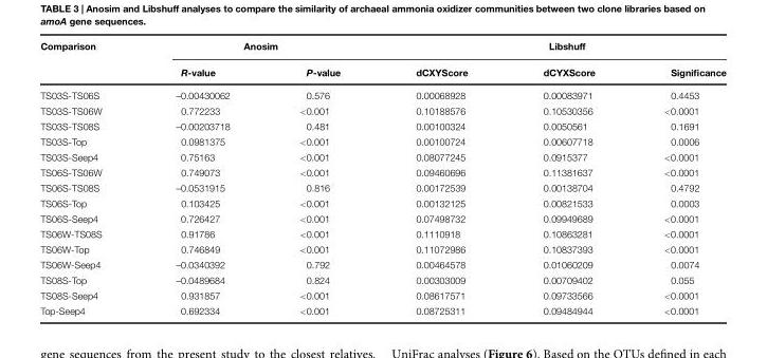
<table><thead><tr><td rowspan="2">Comparison</td><td colspan="2">Anosim</td><td colspan="3">Libshuff</td></tr><tr><td>R-value</td><td>P-value</td><td>dCXYScore</td><td>dCYXScore</td><td>Significance</td></tr></thead><tbody><tr><td>TS03S-TS06S</td><td>–0.00430062</td><td>0.576</td><td>0.00068928</td><td>0.00083971</td><td>0.4453</td></tr><tr><td>TS03S-TS06W</td><td>0.772233</td><td>&lt;0.001</td><td>0.10188576</td><td>0.10530356</td><td>&lt;0.0001</td></tr><tr><td>TS03S-TS08S</td><td>–0.00203718</td><td>0.481</td><td>0.00100324</td><td>0.0050561</td><td>0.1691</td></tr><tr><td>TS03S-Top</td><td>0.0981375</td><td>&lt;0.001</td><td>0.00100724</td><td>0.00607718</td><td>0.0006</td></tr><tr><td>TS03S-Seep4</td><td>0.75163</td><td>&lt;0.001</td><td>0.08077245</td><td>0.0915377</td><td>&lt;0.0001</td></tr><tr><td>TS06S-TS06W</td><td>0.749073</td><td>&lt;0.001</td><td>0.09460696</td><td>0.11381637</td><td>&lt;0.0001</td></tr><tr><td>TS06S-TS08S</td><td>–0.0531915</td><td>0.816</td><td>0.00172539</td><td>0.00138704</td><td>0.4792</td></tr><tr><td>TS06S-Top</td><td>0.103425</td><td>&lt;0.001</td><td>0.00132125</td><td>0.00821533</td><td>0.0003</td></tr><tr><td>TS06S-Seep4</td><td>0.726427</td><td>&lt;0.001</td><td>0.07498732</td><td>0.09949689</td><td>&lt;0.0001</td></tr><tr><td>TS06W-TS08S</td><td>0.91786</td><td>&lt;0.001</td><td>0.1110918</td><td>0.10863281</td><td>&lt;0.0001</td></tr><tr><td>TS06W-Top</td><td>0.746849</td><td>&lt;0.001</td><td>0.11072986</td><td>0.10837393</td><td>&lt;0.0001</td></tr><tr><td>TS06W-Seep4</td><td>–0.0340392</td><td>0.792</td><td>0.00464578</td><td>0.01060209</td><td>0.0074</td></tr><tr><td>TS08S-Top</td><td>–0.0489684</td><td>0.824</td><td>0.00303009</td><td>0.00709402</td><td>0.055</td></tr><tr><td>TS08S-Seep4</td><td>0.931857</td><td>&lt;0.001</td><td>0.08617571</td><td>0.09733566</td><td>&lt;0.0001</td></tr><tr><td>Top-Seep4</td><td>0.692334</td><td>&lt;0.001</td><td>0.08725311</td><td>0.09484944</td><td>&lt;0.0001</td></tr></tbody></table>